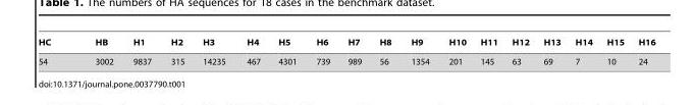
<table><thead><tr><td>HC</td><td>HB</td><td>H1</td><td>H2</td><td>H3</td><td>H4</td><td>H5</td><td>H6</td><td>H7</td><td>H8</td><td>H9</td><td>H10</td><td>H11</td><td>H12</td><td>H13</td><td>H14</td><td>H15</td><td>H16</td></tr></thead><tbody><tr><td>54</td><td>3002</td><td>9837</td><td>315</td><td>14235</td><td>467</td><td>4301</td><td>739</td><td>989</td><td>56</td><td>1354</td><td>201</td><td>145</td><td>63</td><td>69</td><td>7</td><td>10</td><td>24</td></tr></tbody></table>